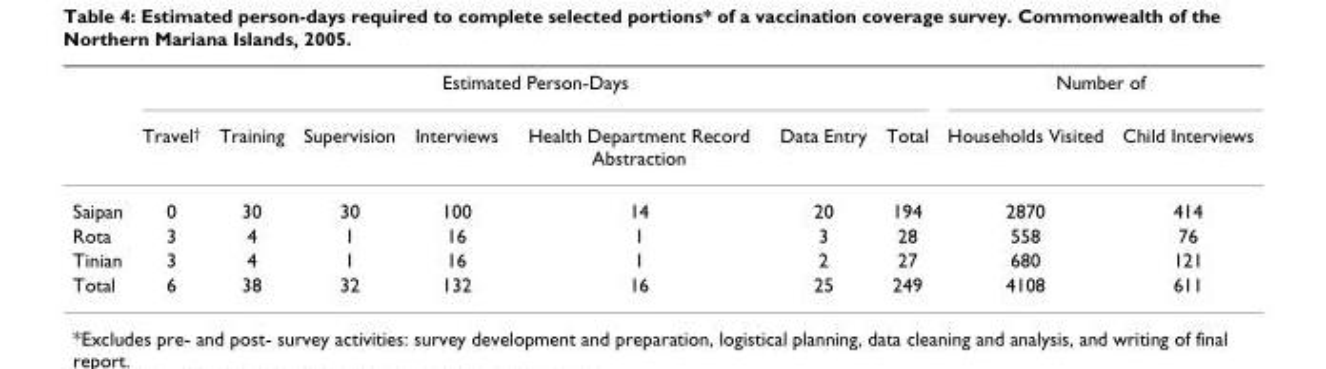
<table><thead><tr><td rowspan="2"></td><td colspan="7">Estimated Person-Days</td><td colspan="2">Number of</td></tr><tr><td>Travel<sup>†</sup></td><td>Training</td><td>Supervision</td><td>Interviews</td><td>Health Department Record Abstraction</td><td>Data Entry</td><td>Total</td><td>Households Visited</td><td>Child Interviews</td></tr></thead><tbody><tr><td>Saipan</td><td>0</td><td>30</td><td>30</td><td>100</td><td>14</td><td>20</td><td>194</td><td>2870</td><td>414</td></tr><tr><td>Rota</td><td>3</td><td>4</td><td>1</td><td>16</td><td>1</td><td>3</td><td>28</td><td>558</td><td>76</td></tr><tr><td>Tinian</td><td>3</td><td>4</td><td>1</td><td>16</td><td>1</td><td>2</td><td>27</td><td>680</td><td>121</td></tr><tr><td>Total</td><td>6</td><td>38</td><td>32</td><td>132</td><td>16</td><td>25</td><td>249</td><td>4108</td><td>611</td></tr></tbody></table>